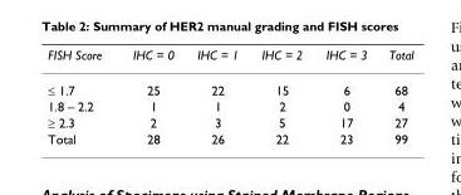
<table><thead><tr><td>FISH Score</td><td>IHC = 0</td><td>IHC = 1</td><td>IHC = 2</td><td>IHC = 3</td><td>Total</td></tr></thead><tbody><tr><td>≤ 1.7</td><td>25</td><td>22</td><td>15</td><td>6</td><td>68</td></tr><tr><td>1.8 – 2.2</td><td>1</td><td>1</td><td>2</td><td>0</td><td>4</td></tr><tr><td>≥ 2.3</td><td>2</td><td>3</td><td>5</td><td>17</td><td>27</td></tr><tr><td>Total</td><td>28</td><td>26</td><td>22</td><td>23</td><td>99</td></tr></tbody></table>